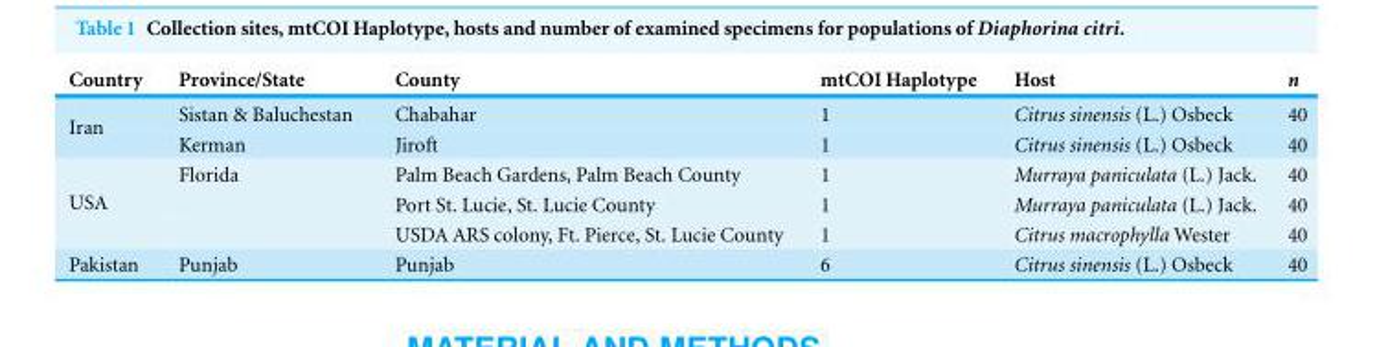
<table><thead><tr><td>Country</td><td>Province/State</td><td>County</td><td>mtCOI Haplotype</td><td>Host</td><td>n</td></tr></thead><tbody><tr><td rowspan="2">Iran</td><td>Sistan &amp; Baluchestan</td><td>Chabahar</td><td>1</td><td>Citrus sinensis (L.) Osbeck</td><td>40</td></tr><tr><td>Kerman</td><td>Jiroft</td><td>1</td><td>Citrus sinensis (L.) Osbeck</td><td>40</td></tr><tr><td rowspan="3">USA</td><td>Florida</td><td>Palm Beach Gardens, Palm Beach County</td><td>1</td><td>Murraya paniculata (L.) Jack.</td><td>40</td></tr><tr><td></td><td>Port St. Lucie, St. Lucie County</td><td>1</td><td>Murraya paniculata (L.) Jack.</td><td>40</td></tr><tr><td></td><td>USDA ARS colony, Ft. Pierce, St. Lucie County</td><td>1</td><td>Citrus macrophylla Wester</td><td>40</td></tr><tr><td>Pakistan</td><td>Punjab</td><td>Punjab</td><td>6</td><td>Citrus sinensis (L.) Osbeck</td><td>40</td></tr></tbody></table>